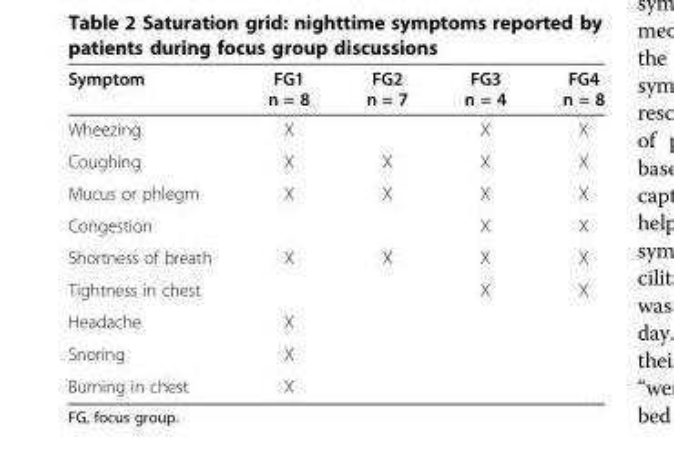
<table><thead><tr><td>Symptom</td><td>FG1 n = 8</td><td>FG2 n = 7</td><td>FG3 n = 4</td><td>FG4 n = 8</td></tr></thead><tbody><tr><td>Wheezing</td><td>X</td><td></td><td>X</td><td>X</td></tr><tr><td>Coughing</td><td>X</td><td>X</td><td>X</td><td>X</td></tr><tr><td>Mucus or phlegm</td><td>X</td><td>X</td><td>X</td><td>X</td></tr><tr><td>Congestion</td><td></td><td></td><td>X</td><td>X</td></tr><tr><td>Shortness of breath</td><td>X</td><td>X</td><td>X</td><td>X</td></tr><tr><td>Tightness in chest</td><td></td><td></td><td>X</td><td>X</td></tr><tr><td>Headache</td><td>X</td><td></td><td></td><td></td></tr><tr><td>Snoring</td><td>X</td><td></td><td></td><td></td></tr><tr><td>Burning in chest</td><td>X</td><td></td><td></td><td></td></tr></tbody></table>